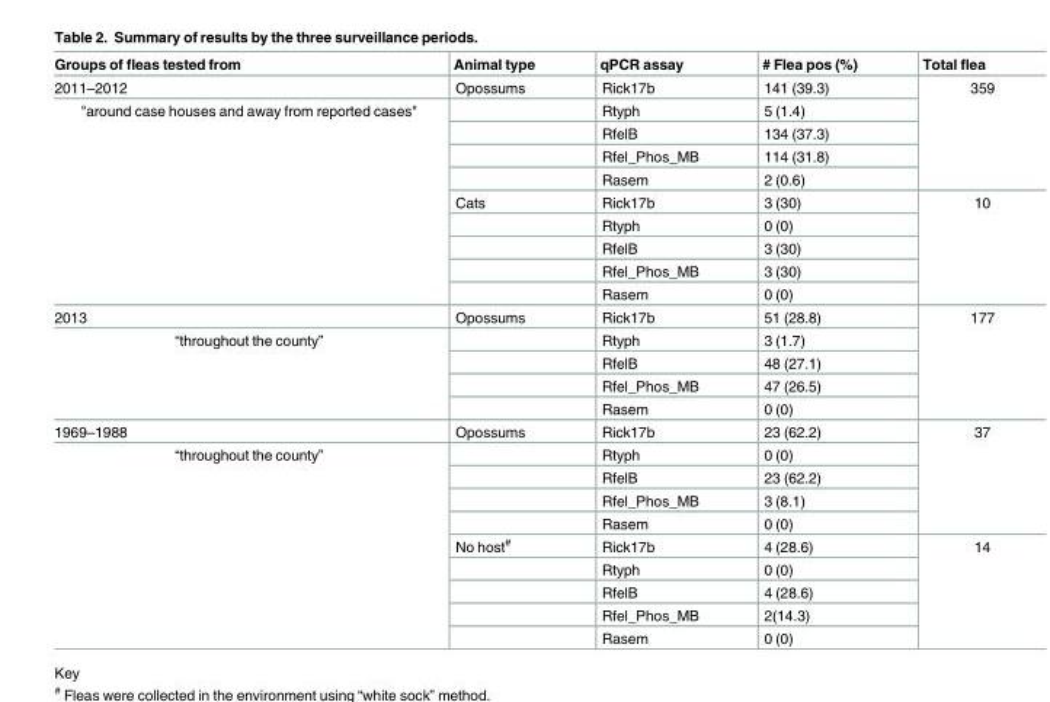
<table><thead><tr><td>Groups of fleas tested from</td><td>Animal type</td><td>qPCR assay</td><td># Flea pos (%)</td><td>Total flea</td></tr></thead><tbody><tr><td>2011–2012</td><td>Opossums</td><td>Rick17b</td><td>141 (39.3)</td><td rowspan="5">359</td></tr><tr><td rowspan="9">&quot;around case houses and away from reported cases&quot;</td><td></td><td>Rtyph</td><td>5 (1.4)</td></tr><tr><td></td><td>RfelB</td><td>134 (37.3)</td></tr><tr><td></td><td>Rfel_Phos_MB</td><td>114 (31.8)</td></tr><tr><td></td><td>Rasem</td><td>2 (0.6)</td></tr><tr><td>Cats</td><td>Rick17b</td><td>3 (30)</td><td rowspan="5">10</td></tr><tr><td></td><td>Rtyph</td><td>0 (0)</td></tr><tr><td></td><td>RfelB</td><td>3 (30)</td></tr><tr><td></td><td>Rfel_Phos_MB</td><td>3 (30)</td></tr><tr><td></td><td>Rasem</td><td>0 (0)</td></tr><tr><td>2013</td><td>Opossums</td><td>Rick17b</td><td>51 (28.8)</td><td rowspan="5">177</td></tr><tr><td rowspan="4">“throughout the county”</td><td></td><td>Rtyph</td><td>3 (1.7)</td></tr><tr><td></td><td>RfelB</td><td>48 (27.1)</td></tr><tr><td></td><td>Rfel_Phos_MB</td><td>47 (26.5)</td></tr><tr><td></td><td>Rasem</td><td>0 (0)</td></tr><tr><td>1969–1988</td><td>Opossums</td><td>Rick17b</td><td>23 (62.2)</td><td rowspan="5">37</td></tr><tr><td rowspan="9">“throughout the county”</td><td></td><td>Rtyph</td><td>0 (0)</td></tr><tr><td></td><td>RfelB</td><td>23 (62.2)</td></tr><tr><td></td><td>Rfel_Phos_MB</td><td>3 (8.1)</td></tr><tr><td></td><td>Rasem</td><td>0 (0)</td></tr><tr><td>No host<sup>#</sup></td><td>Rick17b</td><td>4 (28.6)</td><td rowspan="5">14</td></tr><tr><td></td><td>Rtyph</td><td>0 (0)</td></tr><tr><td></td><td>RfelB</td><td>4 (28.6)</td></tr><tr><td></td><td>Rfel_Phos_MB</td><td>2(14.3)</td></tr><tr><td></td><td>Rasem</td><td>0 (0)</td></tr></tbody></table>